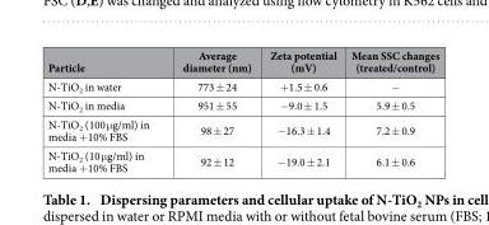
<table><thead><tr><td>Particle</td><td>Average diameter (nm)</td><td>Zeta potential (mV)</td><td>Mean SSC changes (treated/control)</td></tr></thead><tbody><tr><td>N-TiO<sub>2</sub> in water</td><td>773 ± 24</td><td>+ 1.5 ± 0.6</td><td>−</td></tr><tr><td>N-TiO<sub>2</sub> in media</td><td>951 ± 55</td><td>− 9.0 ± 1.5</td><td>5.9 ± 0.5</td></tr><tr><td>N-TiO<sub>2</sub> (100 μ g/ml) in media + 10% FBS</td><td>98 ± 27</td><td>− 16.3 ± 1.4</td><td>7.2 ± 0.9</td></tr><tr><td>N-TiO<sub>2</sub> (10 μ g/ml) in media + 10% FBS</td><td>92 ± 12</td><td>− 19.0 ± 2.1</td><td>6.1 ± 0.6</td></tr></tbody></table>